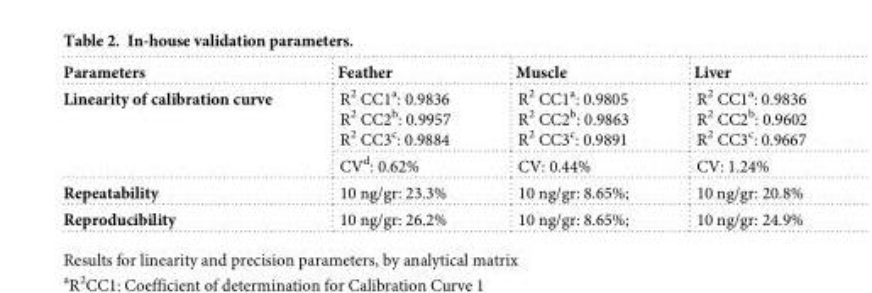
<table><thead><tr><td>Parameters</td><td>Feather</td><td>Muscle</td><td>Liver</td></tr></thead><tbody><tr><td rowspan="2">Linearity of calibration curve</td><td>R<sup>2</sup> CC1<sup>a</sup>: 0.9836 R<sup>2</sup> CC2<sup>b</sup>: 0.9957 R<sup>2</sup> CC3<sup>c</sup>: 0.9884</td><td>R<sup>2</sup> CC1<sup>a</sup>: 0.9805 R<sup>2</sup> CC2<sup>b</sup>: 0.9863 R<sup>2</sup> CC3<sup>c</sup>: 0.9891</td><td>R<sup>2</sup> CC1<sup>a</sup>: 0.9836 R<sup>2</sup> CC2<sup>b</sup>: 0.9602 R<sup>2</sup> CC3<sup>c</sup>: 0.9667</td></tr><tr><td>CV<sup>d</sup>: 0.62%</td><td>CV: 0.44%</td><td>CV: 1.24%</td></tr><tr><td>Repeatability</td><td>10 ng/gr: 23.3%</td><td>10 ng/gr: 8.65%;</td><td>10 ng/gr: 20.8%</td></tr><tr><td>Reproducibility</td><td>10 ng/gr: 26.2%</td><td>10 ng/gr: 8.65%;</td><td>10 ng/gr: 24.9%</td></tr></tbody></table>